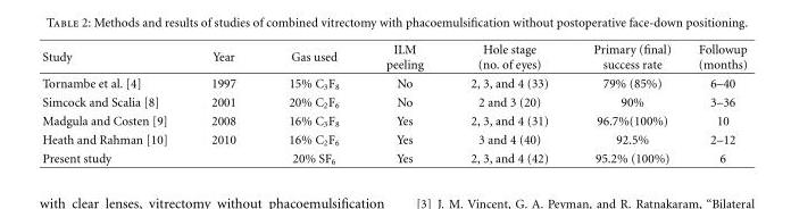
<table><thead><tr><td>Study</td><td>Year</td><td>Gas used</td><td>ILM peeling</td><td>Hole stage (no. of eyes)</td><td>Primary (final) success rate</td><td>Followup (months)</td></tr></thead><tbody><tr><td>Tornambe et al. [4]</td><td>1997</td><td>15% C<sub>3</sub>F<sub>8</sub></td><td>No</td><td>2, 3, and 4 (33)</td><td>79% (85%)</td><td>6–40</td></tr><tr><td>Simcock and Scalia [8]</td><td>2001</td><td>20% C<sub>2</sub>F<sub>6</sub></td><td>No</td><td>2 and 3 (20)</td><td>90%</td><td>3–36</td></tr><tr><td>Madgula and Costen [9]</td><td>2008</td><td>16% C<sub>3</sub>F<sub>8</sub></td><td>Yes</td><td>2, 3, and 4 (31)</td><td>96.7%(100%)</td><td>10</td></tr><tr><td>Heath and Rahman [10]</td><td>2010</td><td>16% C<sub>2</sub>F<sub>6</sub></td><td>Yes</td><td>3 and 4 (40)</td><td>92.5%</td><td>2–12</td></tr><tr><td>Present study</td><td></td><td>20% SF<sub>6</sub></td><td>Yes</td><td>2, 3, and 4 (42)</td><td>95.2% (100%)</td><td>6</td></tr></tbody></table>